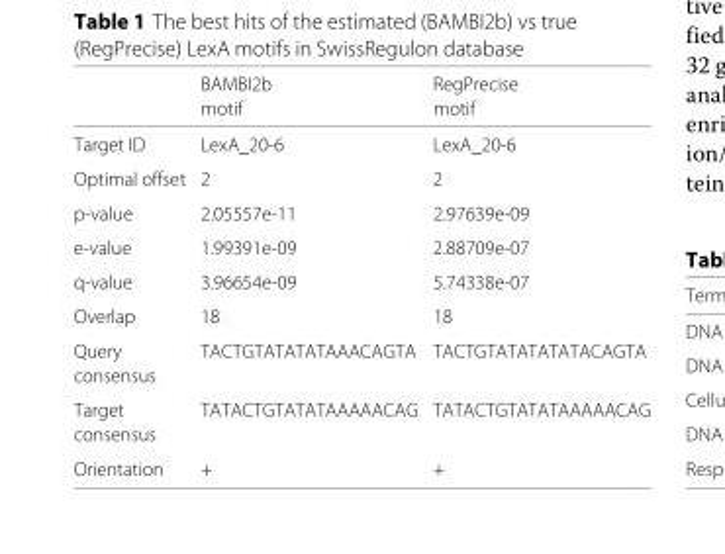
<table><thead><tr><td rowspan="2"></td><td rowspan="2">BAMBI2b motif</td><td rowspan="2">RegPrecise motif</td></tr><tr></tr></thead><tbody><tr><td>Target ID</td><td>LexA_20-6</td><td>LexA_20-6</td></tr><tr><td>Optimal offset</td><td>2</td><td>2</td></tr><tr><td>p-value</td><td>2.05557e-11</td><td>2.97639e-09</td></tr><tr><td>e-value</td><td>1.99391e-09</td><td>2.88709e-07</td></tr><tr><td>q-value</td><td>3.96654e-09</td><td>5.74338e-07</td></tr><tr><td>Overlap</td><td>18</td><td>18</td></tr><tr><td>Query</td><td>TACTGTATATATAAACAGTA</td><td>TACTGTATATATATACAGTA</td></tr><tr><td colspan="3">consensus</td></tr><tr><td>Target</td><td>TATACTGTATATAAAAACAG</td><td>TATACTGTATATAAAAACAG</td></tr><tr><td colspan="3">consensus</td></tr><tr><td>Orientation</td><td>+</td><td>+</td></tr></tbody></table>